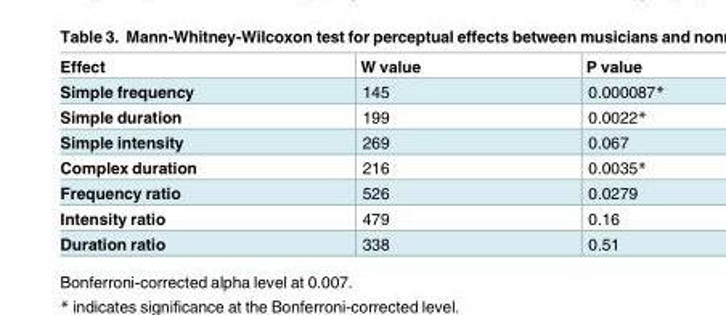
<table><thead><tr><td>Effect</td><td>W value</td><td>P value</td></tr></thead><tbody><tr><td>Simple frequency</td><td>145</td><td>0.000087*</td></tr><tr><td>Simple duration</td><td>199</td><td>0.0022*</td></tr><tr><td>Simple intensity</td><td>269</td><td>0.067</td></tr><tr><td>Complex duration</td><td>216</td><td>0.0035*</td></tr><tr><td>Frequency ratio</td><td>526</td><td>0.0279</td></tr><tr><td>Intensity ratio</td><td>479</td><td>0.16</td></tr><tr><td>Duration ratio</td><td>338</td><td>0.51</td></tr></tbody></table>